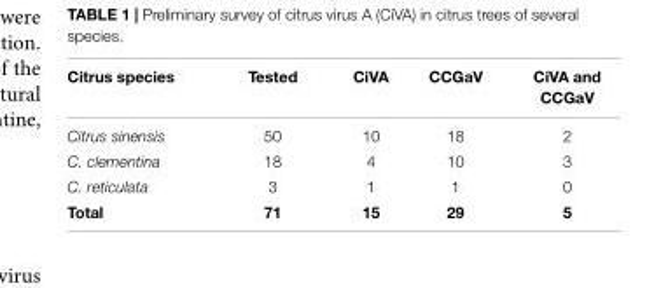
<table><thead><tr><td>Citrus species</td><td>Tested</td><td>CiVA</td><td>CCGaV</td><td>CiVA and CCGaV</td></tr></thead><tbody><tr><td>Citrus sinensis</td><td>50</td><td>10</td><td>18</td><td>2</td></tr><tr><td>C. clementina</td><td>18</td><td>4</td><td>10</td><td>3</td></tr><tr><td>C. reticulata</td><td>3</td><td>1</td><td>1</td><td>0</td></tr><tr><td>Total</td><td>71</td><td>15</td><td>29</td><td>5</td></tr></tbody></table>